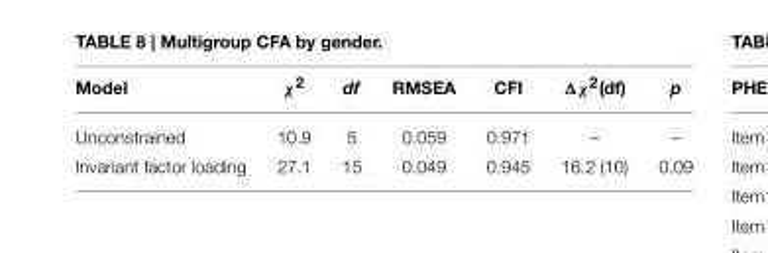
<table><thead><tr><td>Model</td><td>χ<sup>2</sup></td><td>df</td><td>RMSEA</td><td>CFI</td><td>Δχ<sup>2</sup>(df)</td><td>p</td></tr></thead><tbody><tr><td>Unconstrained</td><td>10.9</td><td>5</td><td>0.059</td><td>0.971</td><td>–</td><td>–</td></tr><tr><td>Invariant factor loading</td><td>27.1</td><td>15</td><td>0.049</td><td>0.945</td><td>16.2 (10)</td><td>0.09</td></tr></tbody></table>